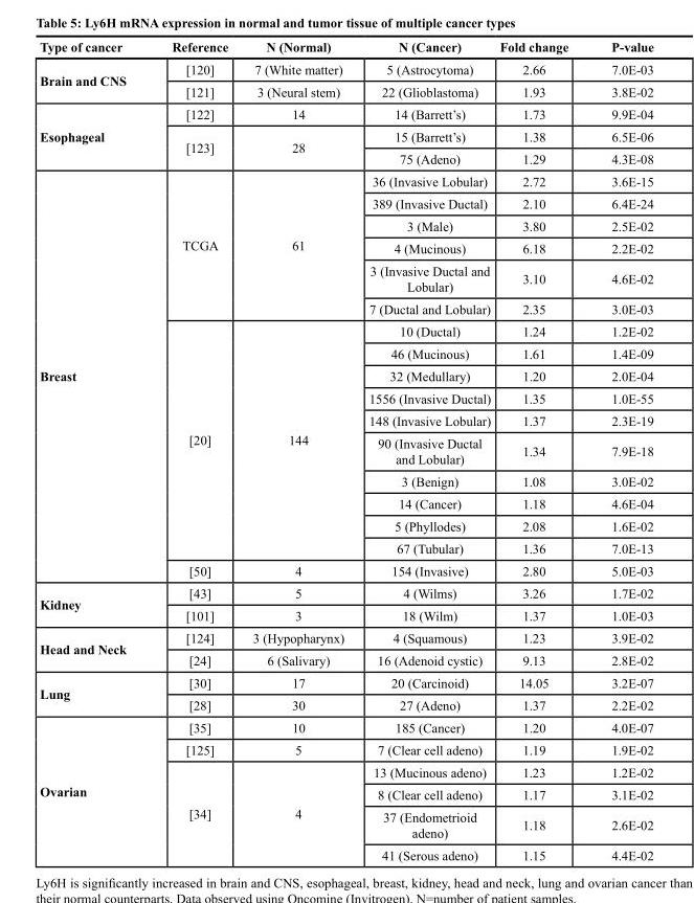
<table><thead><tr><td>Type of cancer</td><td>Reference</td><td>N (Normal)</td><td>N (Cancer)</td><td>Fold change</td><td>P-value</td></tr></thead><tbody><tr><td rowspan="2">Brain and CNS</td><td>[120]</td><td>7 (White matter)</td><td>5 (Astrocytoma)</td><td>2.66</td><td>7.0E-03</td></tr><tr><td>[121]</td><td>3 (Neural stem)</td><td>22 (Glioblastoma)</td><td>1.93</td><td>3.8E-02</td></tr><tr><td rowspan="3">Esophageal</td><td>[122]</td><td>14</td><td>14 (Barrett’s)</td><td>1.73</td><td>9.9E-04</td></tr><tr><td rowspan="2">[123]</td><td rowspan="2">28</td><td>15 (Barrett’s)</td><td>1.38</td><td>6.5E-06</td></tr><tr><td>75 (Adeno)</td><td>1.29</td><td>4.3E-08</td></tr><tr><td rowspan="17">Breast</td><td rowspan="6">TCGA</td><td rowspan="6">61</td><td>36 (Invasive Lobular)</td><td>2.72</td><td>3.6E-15</td></tr><tr><td>389 (Invasive Ductal)</td><td>2.10</td><td>6.4E-24</td></tr><tr><td>3 (Male)</td><td>3.80</td><td>2.5E-02</td></tr><tr><td>4 (Mucinous)</td><td>6.18</td><td>2.2E-02</td></tr><tr><td>3 (Invasive Ductal and Lobular)</td><td>3.10</td><td>4.6E-02</td></tr><tr><td>7 (Ductal and Lobular)</td><td>2.35</td><td>3.0E-03</td></tr><tr><td rowspan="10">[20]</td><td rowspan="10">144</td><td>10 (Ductal)</td><td>1.24</td><td>1.2E-02</td></tr><tr><td>46 (Mucinous)</td><td>1.61</td><td>1.4E-09</td></tr><tr><td>32 (Medullary)</td><td>1.20</td><td>2.0E-04</td></tr><tr><td>1556 (Invasive Ductal)</td><td>1.35</td><td>1.0E-55</td></tr><tr><td>148 (Invasive Lobular)</td><td>1.37</td><td>2.3E-19</td></tr><tr><td>90 (Invasive Ductal and Lobular)</td><td>1.34</td><td>7.9E-18</td></tr><tr><td>3 (Benign)</td><td>1.08</td><td>3.0E-02</td></tr><tr><td>14 (Cancer)</td><td>1.18</td><td>4.6E-04</td></tr><tr><td>5 (Phyllodes)</td><td>2.08</td><td>1.6E-02</td></tr><tr><td>67 (Tubular)</td><td>1.36</td><td>7.0E-13</td></tr><tr><td>[50]</td><td>4</td><td>154 (Invasive)</td><td>2.80</td><td>5.0E-03</td></tr><tr><td rowspan="2">Kidney</td><td>[43]</td><td>5</td><td>4 (Wilms)</td><td>3.26</td><td>1.7E-02</td></tr><tr><td>[101]</td><td>3</td><td>18 (Wilm)</td><td>1.37</td><td>1.0E-03</td></tr><tr><td rowspan="2">Head and Neck</td><td>[124]</td><td>3 (Hypopharynx)</td><td>4 (Squamous)</td><td>1.23</td><td>3.9E-02</td></tr><tr><td>[24]</td><td>6 (Salivary)</td><td>16 (Adenoid cystic)</td><td>9.13</td><td>2.8E-02</td></tr><tr><td rowspan="2">Lung</td><td>[30]</td><td>17</td><td>20 (Carcinoid)</td><td>14.05</td><td>3.2E-07</td></tr><tr><td>[28]</td><td>30</td><td>27 (Adeno)</td><td>1.37</td><td>2.2E-02</td></tr><tr><td rowspan="6">Ovarian</td><td>[35]</td><td>10</td><td>185 (Cancer)</td><td>1.20</td><td>4.0E-07</td></tr><tr><td>[125]</td><td>5</td><td>7 (Clear cell adeno)</td><td>1.19</td><td>1.9E-02</td></tr><tr><td rowspan="4">[34]</td><td rowspan="4">4</td><td>13 (Mucinous adeno)</td><td>1.23</td><td>1.2E-02</td></tr><tr><td>8 (Clear cell adeno)</td><td>1.17</td><td>3.1E-02</td></tr><tr><td>37 (Endometrioid adeno)</td><td>1.18</td><td>2.6E-02</td></tr><tr><td>41 (Serous adeno)</td><td>1.15</td><td>4.4E-02</td></tr></tbody></table>